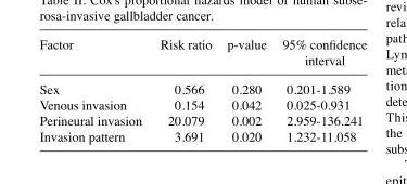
<table><thead><tr><td>Factor</td><td>Risk ratio</td><td>p-value</td><td>95% confidence interval</td></tr></thead><tbody><tr><td>Sex</td><td>0.566</td><td>0.280</td><td>0.201-1.589</td></tr><tr><td>Venous invasion</td><td>0.154</td><td>0.042</td><td>0.025-0.931</td></tr><tr><td>Perineural invasion</td><td>20.079</td><td>0.002</td><td>2.959-136.241</td></tr><tr><td>Invasion pattern</td><td>3.691</td><td>0.020</td><td>1.232-11.058</td></tr></tbody></table>